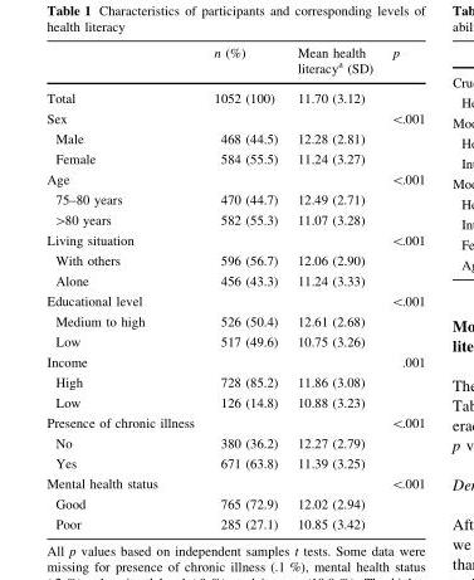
<table><thead><tr><td></td><td>n (%)</td><td>Mean health literacy<sup>a</sup> (SD)</td><td>p</td></tr></thead><tbody><tr><td>Total</td><td>1052 (100)</td><td>11.70 (3.12)</td><td></td></tr><tr><td>Sex</td><td></td><td></td><td>&lt;.001</td></tr><tr><td>Male</td><td>468 (44.5)</td><td>12.28 (2.81)</td><td></td></tr><tr><td>Female</td><td>584 (55.5)</td><td>11.24 (3.27)</td><td></td></tr><tr><td>Age</td><td></td><td></td><td>&lt;.001</td></tr><tr><td>75–80 years</td><td>470 (44.7)</td><td>12.49 (2.71)</td><td></td></tr><tr><td>&gt;80 years</td><td>582 (55.3)</td><td>11.07 (3.28)</td><td></td></tr><tr><td>Living situation</td><td></td><td></td><td>&lt;.001</td></tr><tr><td>With others</td><td>596 (56.7)</td><td>12.06 (2.90)</td><td></td></tr><tr><td>Alone</td><td>456 (43.3)</td><td>11.24 (3.33)</td><td></td></tr><tr><td>Educational level</td><td></td><td></td><td>&lt;.001</td></tr><tr><td>Medium to high</td><td>526 (50.4)</td><td>12.61 (2.68)</td><td></td></tr><tr><td>Low</td><td>517 (49.6)</td><td>10.75 (3.26)</td><td></td></tr><tr><td>Income</td><td></td><td></td><td>.001</td></tr><tr><td>High</td><td>728 (85.2)</td><td>11.86 (3.08)</td><td></td></tr><tr><td>Low</td><td>126 (14.8)</td><td>10.88 (3.23)</td><td></td></tr><tr><td>Presence of chronic illness</td><td></td><td></td><td>&lt;.001</td></tr><tr><td>No</td><td>380 (36.2)</td><td>12.27 (2.79)</td><td></td></tr><tr><td>Yes</td><td>671 (63.8)</td><td>11.39 (3.25)</td><td></td></tr><tr><td>Mental health status</td><td></td><td></td><td>&lt;.001</td></tr><tr><td>Good</td><td>765 (72.9)</td><td>12.02 (2.94)</td><td></td></tr><tr><td>Poor</td><td>285 (27.1)</td><td>10.85 (3.42)</td><td></td></tr></tbody></table>